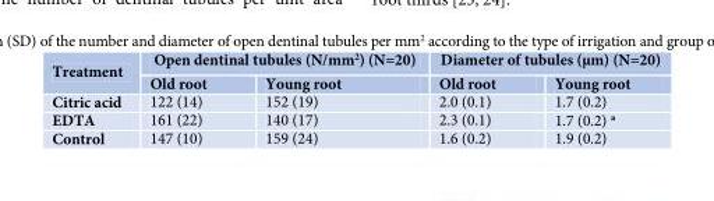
<table><thead><tr><td rowspan="2">Treatment</td><td colspan="2">Open dentinal tubules (N/mm<sup>2</sup>) (N=20)</td><td colspan="2">Diameter of tubules (µm) (N=20)</td></tr><tr><td>Old root</td><td>Young root</td><td>Old root</td><td>Young root</td></tr></thead><tbody><tr><td>Citric acid</td><td>122 (14)</td><td>152 (19)</td><td>2.0 (0.1)</td><td>1.7 (0.2)</td></tr><tr><td>EDTA</td><td>161 (22)</td><td>140 (17)</td><td>2.3 (0.1)</td><td>1.7 (0.2) <sup>a</sup></td></tr><tr><td>Control</td><td>147 (10)</td><td>159 (24)</td><td>1.6 (0.2)</td><td>1.9 (0.2)</td></tr></tbody></table>